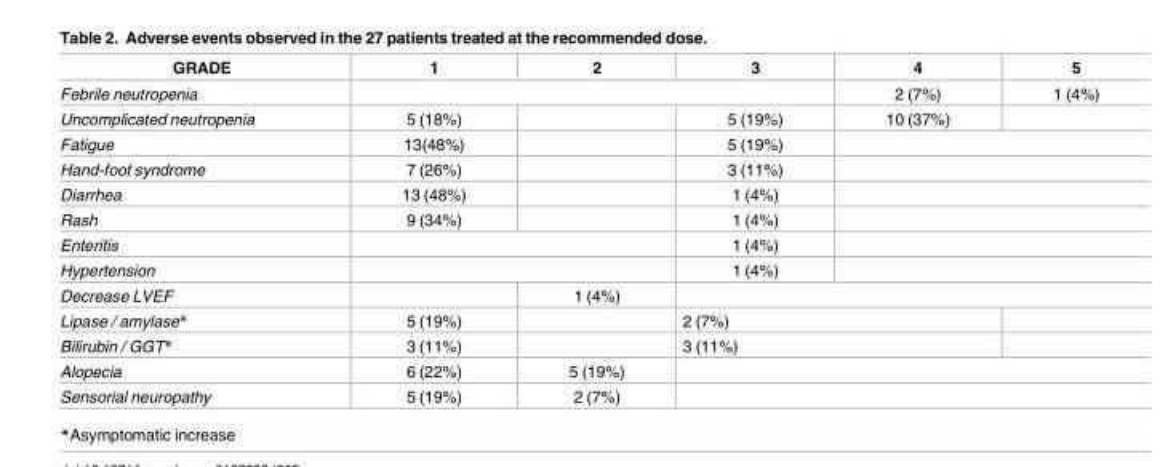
<table><thead><tr><td>GRADE</td><td>1</td><td>2</td><td>3</td><td>4</td><td>5</td></tr></thead><tbody><tr><td>Febrile neutropenia</td><td colspan="3"></td><td>2 (7%)</td><td>1 (4%)</td></tr><tr><td>Uncomplicated neutropenia</td><td>5 (18%)</td><td></td><td>5 (19%)</td><td>10 (37%)</td><td></td></tr><tr><td>Fatigue</td><td>13(48%)</td><td></td><td>5 (19%)</td><td colspan="2"></td></tr><tr><td>Hand-foot syndrome</td><td>7 (26%)</td><td></td><td>3 (11%)</td><td colspan="2"></td></tr><tr><td>Diarrhea</td><td>13 (48%)</td><td></td><td>1 (4%)</td><td colspan="2"></td></tr><tr><td>Rash</td><td>9 (34%)</td><td></td><td>1 (4%)</td><td colspan="2"></td></tr><tr><td>Enteritis</td><td colspan="2"></td><td>1 (4%)</td><td colspan="2"></td></tr><tr><td>Hypertension</td><td colspan="2"></td><td>1 (4%)</td><td colspan="2"></td></tr><tr><td>Decrease LVEF</td><td></td><td>1 (4%)</td><td colspan="3"></td></tr><tr><td>Lipase / amylase*</td><td>5 (19%)</td><td></td><td>2 (7%)</td><td colspan="2"></td></tr><tr><td>Bilirubin / GGT*</td><td>3 (11%)</td><td></td><td>3 (11%)</td><td colspan="2"></td></tr><tr><td>Alopecia</td><td>6 (22%)</td><td>5 (19%)</td><td colspan="3"></td></tr><tr><td>Sensorial neuropathy</td><td>5 (19%)</td><td>2 (7%)</td><td colspan="3"></td></tr></tbody></table>